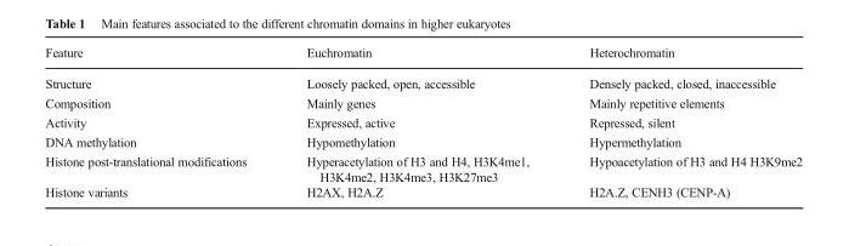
<table><thead><tr><td>Feature</td><td>Euchromatin</td><td>Heterochromatin</td></tr></thead><tbody><tr><td>Structure</td><td>Loosely packed, open, accessible</td><td>Densely packed, closed, inaccessible</td></tr><tr><td>Composition</td><td>Mainly genes</td><td>Mainly repetitive elements</td></tr><tr><td>Activity</td><td>Expressed, active</td><td>Repressed, silent</td></tr><tr><td>DNA methylation</td><td>Hypomethylation</td><td>Hypermethylation</td></tr><tr><td>Histone post-translational modifications</td><td>Hyperacetylation of H3 and H4, H3K4me1, H3K4me2, H3K4me3, H3K27me3</td><td>Hypoacetylation of H3 and H4 H3K9me2</td></tr><tr><td>Histone variants</td><td>H2AX, H2A.Z</td><td>H2A.Z, CENH3 (CENP-A)</td></tr></tbody></table>